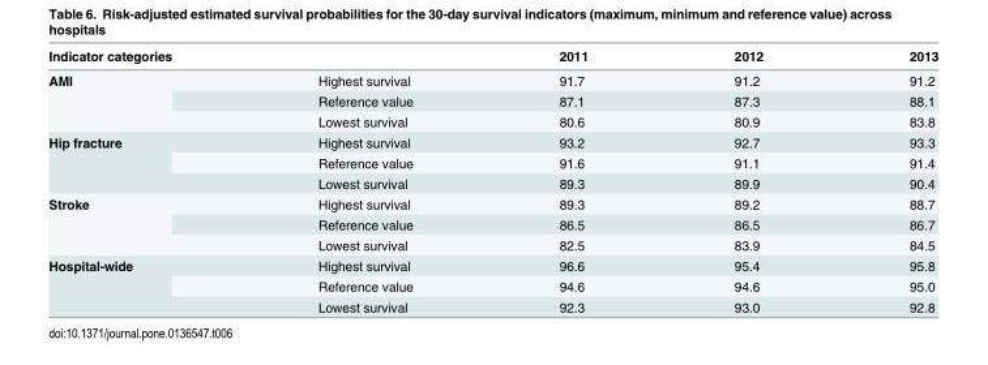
<table><thead><tr><td>Indicator categories</td><td></td><td>2011</td><td>2012</td><td>2013</td></tr></thead><tbody><tr><td rowspan="3">AMI</td><td>Highest survival</td><td>91.7</td><td>91.2</td><td>91.2</td></tr><tr><td>Reference value</td><td>87.1</td><td>87.3</td><td>88.1</td></tr><tr><td>Lowest survival</td><td>80.6</td><td>80.9</td><td>83.8</td></tr><tr><td rowspan="3">Hip fracture</td><td>Highest survival</td><td>93.2</td><td>92.7</td><td>93.3</td></tr><tr><td>Reference value</td><td>91.6</td><td>91.1</td><td>91.4</td></tr><tr><td>Lowest survival</td><td>89.3</td><td>89.9</td><td>90.4</td></tr><tr><td rowspan="3">Stroke</td><td>Highest survival</td><td>89.3</td><td>89.2</td><td>88.7</td></tr><tr><td>Reference value</td><td>86.5</td><td>86.5</td><td>86.7</td></tr><tr><td>Lowest survival</td><td>82.5</td><td>83.9</td><td>84.5</td></tr><tr><td rowspan="3">Hospital-wide</td><td>Highest survival</td><td>96.6</td><td>95.4</td><td>95.8</td></tr><tr><td>Reference value</td><td>94.6</td><td>94.6</td><td>95.0</td></tr><tr><td>Lowest survival</td><td>92.3</td><td>93.0</td><td>92.8</td></tr></tbody></table>